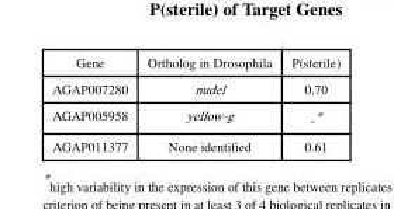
<table><tbody><tr><td>Gene</td><td>Ortholog in Drosophila</td><td>P(sterile)</td></tr><tr><td>AGAP007280</td><td>nudel</td><td>0.70</td></tr><tr><td>AGAP005958</td><td>yellow-g</td><td>-*</td></tr><tr><td>AGAP011377</td><td>None identified</td><td>0.61</td></tr></tbody></table>